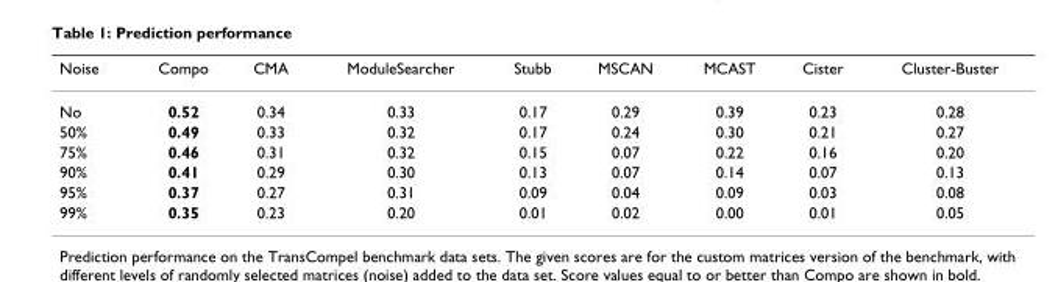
<table><thead><tr><td>Noise</td><td>Compo</td><td>CMA</td><td>ModuleSearcher</td><td>Stubb</td><td>MSCAN</td><td>MCAST</td><td>Cister</td><td>Cluster-Buster</td></tr></thead><tbody><tr><td>No</td><td>0.52</td><td>0.34</td><td>0.33</td><td>0.17</td><td>0.29</td><td>0.39</td><td>0.23</td><td>0.28</td></tr><tr><td>50%</td><td>0.49</td><td>0.33</td><td>0.32</td><td>0.17</td><td>0.24</td><td>0.30</td><td>0.21</td><td>0.27</td></tr><tr><td>75%</td><td>0.46</td><td>0.31</td><td>0.32</td><td>0.15</td><td>0.07</td><td>0.22</td><td>0.16</td><td>0.20</td></tr><tr><td>90%</td><td>0.41</td><td>0.29</td><td>0.30</td><td>0.13</td><td>0.07</td><td>0.14</td><td>0.07</td><td>0.13</td></tr><tr><td>95%</td><td>0.37</td><td>0.27</td><td>0.31</td><td>0.09</td><td>0.04</td><td>0.09</td><td>0.03</td><td>0.08</td></tr><tr><td>99%</td><td>0.35</td><td>0.23</td><td>0.20</td><td>0.01</td><td>0.02</td><td>0.00</td><td>0.01</td><td>0.05</td></tr></tbody></table>